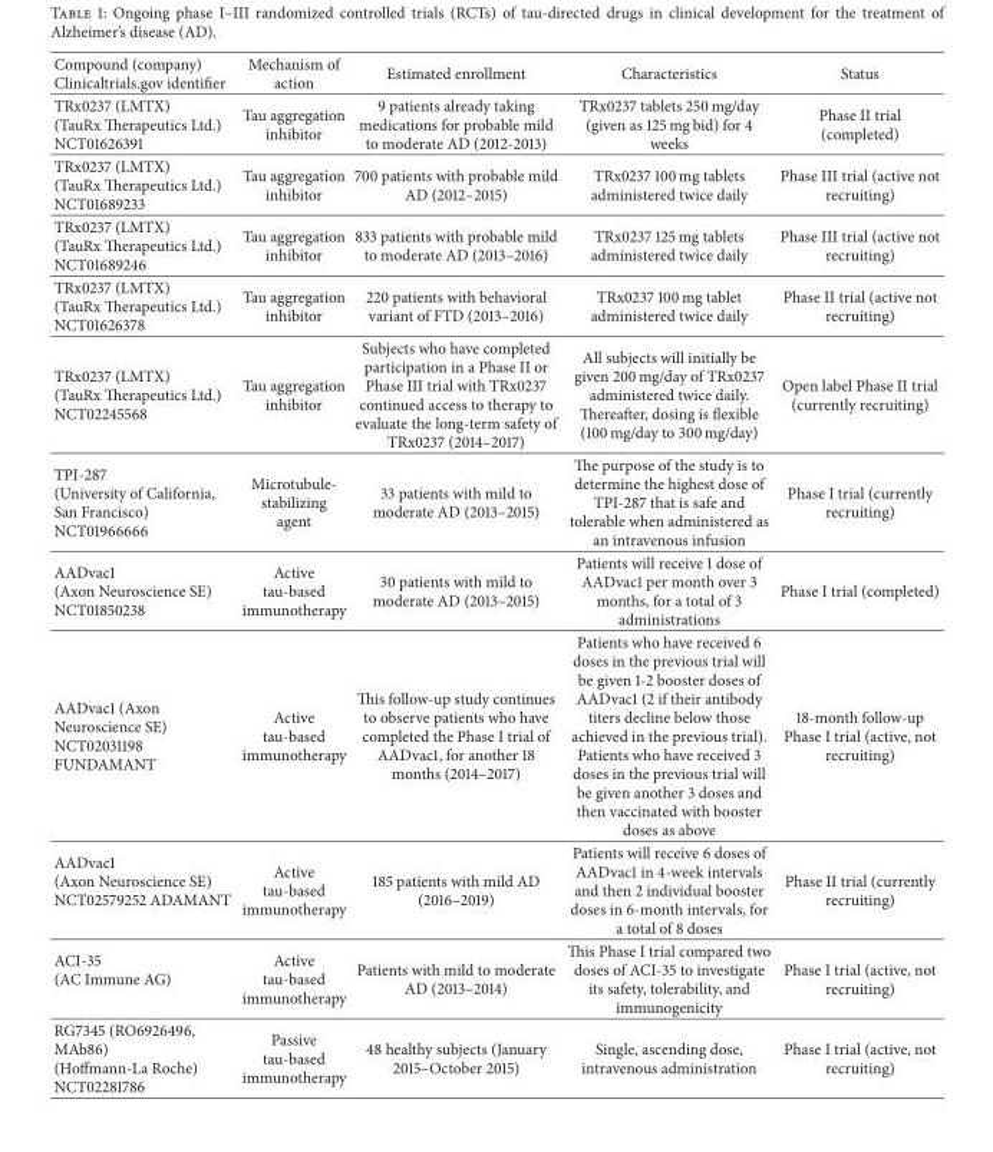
<table><thead><tr><td>Compound (company) Clinicaltrials.gov identifier</td><td>Mechanism of action</td><td>Estimated enrollment</td><td>Characteristics</td><td>Status</td></tr></thead><tbody><tr><td>TRx0237 (LMTX) (TauRx Therapeutics Ltd.) NCT01626391</td><td>Tau aggregation inhibitor</td><td>9 patients already taking medications for probable mild to moderate AD (2012-2013)</td><td>TRx0237 tablets 250 mg/day (given as 125 mg bid) for 4 weeks</td><td>Phase II trial (completed)</td></tr><tr><td>TRx0237 (LMTX) (TauRx Therapeutics Ltd.) NCT01689233</td><td>Tau aggregation inhibitor</td><td>700 patients with probable mild AD (2012–2015)</td><td>TRx0237 100 mg tablets administered twice daily</td><td>Phase III trial (active not recruiting)</td></tr><tr><td>TRx0237 (LMTX) (TauRx Therapeutics Ltd.) NCT01689246</td><td>Tau aggregation inhibitor</td><td>833 patients with probable mild to moderate AD (2013–2016)</td><td>TRx0237 125 mg tablets administered twice daily</td><td>Phase III trial (active not recruiting)</td></tr><tr><td>TRx0237 (LMTX) (TauRx Therapeutics Ltd.) NCT01626378</td><td>Tau aggregation inhibitor</td><td>220 patients with behavioral variant of FTD (2013–2016)</td><td>TRx0237 100 mg tablet administered twice daily</td><td>Phase II trial (active not recruiting)</td></tr><tr><td>TRx0237 (LMTX) (TauRx Therapeutics Ltd.) NCT02245568</td><td>Tau aggregation inhibitor</td><td>Subjects who have completed participation in a Phase II or Phase III trial with TRx0237 continued access to therapy to evaluate the long-term safety of TRx0237 (2014–2017)</td><td>All subjects will initially be given 200 mg/day of TRx0237 administered twice daily. Thereafter, dosing is flexible (100 mg/day to 300 mg/day)</td><td>Open label Phase II trial (currently recruiting)</td></tr><tr><td>TPI-287 (University of California, San Francisco) NCT01966666</td><td>Microtubule- stabilizing agent</td><td>33 patients with mild to moderate AD (2013–2015)</td><td>The purpose of the study is to determine the highest dose of TPI-287 that is safe and tolerable when administered as an intravenous infusion</td><td>Phase I trial (currently recruiting)</td></tr><tr><td>AADvac1 (Axon Neuroscience SE) NCT01850238</td><td>Active tau-based immunotherapy</td><td>30 patients with mild to moderate AD (2013–2015)</td><td>Patients will receive 1 dose of AADvac1 per month over 3 months, for a total of 3 administrations</td><td>Phase I trial (completed)</td></tr><tr><td>AADvac1 (Axon Neuroscience SE) NCT02031198 FUNDAMANT</td><td>Active tau-based immunotherapy</td><td>This follow-up study continues to observe patients who have completed the Phase I trial of AADvac1, for another 18 months (2014–2017)</td><td>Patients who have received 6 doses in the previous trial will be given 1-2 booster doses of AADvac1 (2 if their antibody titers decline below those achieved in the previous trial). Patients who have received 3 doses in the previous trial will be given another 3 doses and then vaccinated with booster doses as above</td><td>18-month follow-up Phase I trial (active, not recruiting)</td></tr><tr><td>AADvac1 (Axon Neuroscience SE) NCT02579252 ADAMANT</td><td>Active tau-based immunotherapy</td><td>185 patients with mild AD (2016–2019)</td><td>Patients will receive 6 doses of AADvac1 in 4-week intervals and then 2 individual booster doses in 6-month intervals, for a total of 8 doses</td><td>Phase II trial (currently recruiting)</td></tr><tr><td>ACI-35 (AC Immune AG)</td><td>Active tau-based immunotherapy</td><td>Patients with mild to moderate AD (2013–2014)</td><td>This Phase I trial compared two doses of ACI-35 to investigate its safety, tolerability, and immunogenicity</td><td>Phase I trial (active, not recruiting)</td></tr><tr><td>RG7345 (RO6926496, MAb86) (Hoffmann-La Roche) NCT02281786</td><td>Passive tau-based immunotherapy</td><td>48 healthy subjects (January 2015–October 2015)</td><td>Single, ascending dose, intravenous administration</td><td>Phase I trial (active, not recruiting)</td></tr></tbody></table>